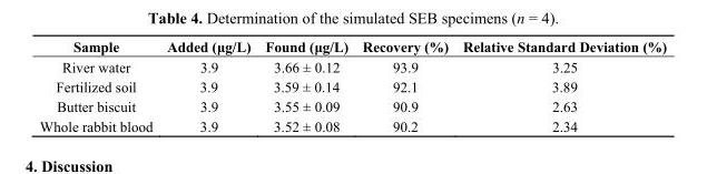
<table><thead><tr><td>Sample</td><td>Added (μg/L)</td><td>Found (μg/L)</td><td>Recovery (%)</td><td>Relative Standard Deviation (%)</td></tr></thead><tbody><tr><td>River water</td><td>3.9</td><td>3.66 ± 0.12</td><td>93.9</td><td>3.25</td></tr><tr><td>Fertilized soil</td><td>3.9</td><td>3.59 ± 0.14</td><td>92.1</td><td>3.89</td></tr><tr><td>Butter biscuit</td><td>3.9</td><td>3.55 ± 0.09</td><td>90.9</td><td>2.63</td></tr><tr><td>Whole rabbit blood</td><td>3.9</td><td>3.52 ± 0.08</td><td>90.2</td><td>2.34</td></tr></tbody></table>